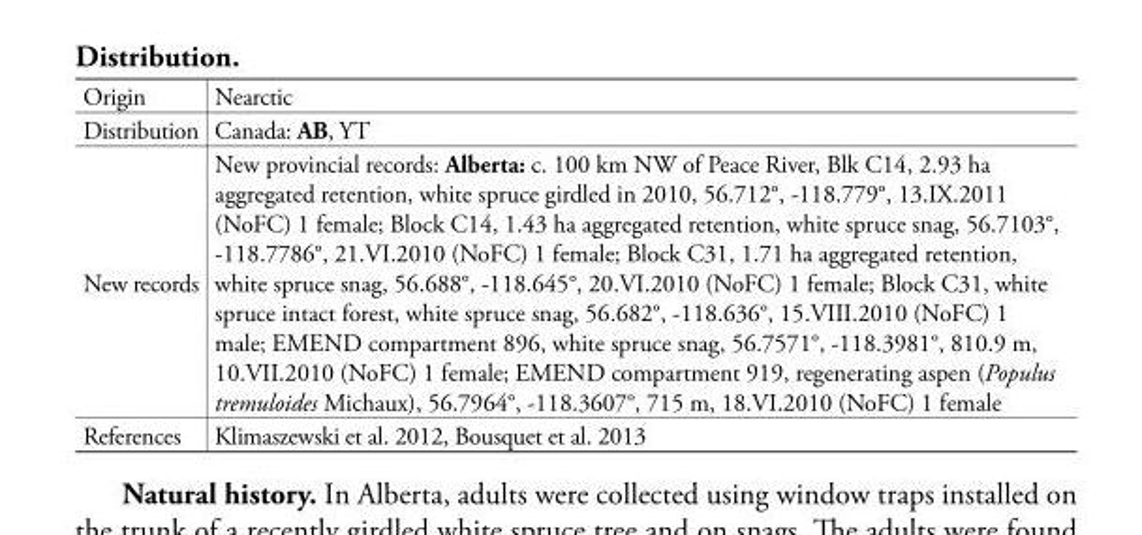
<table><tbody><tr><td>Origin</td><td>Nearctic</td></tr><tr><td>Distribution</td><td>Canada: AB, YT</td></tr><tr><td>New records</td><td>New provincial records: Alberta: c. 100 km NW of Peace River, Blk C14, 2.93 ha aggregated retention, white spruce girdled in 2010, 56.712°, -118.779°, 13.IX.2011 (NoFC) 1 female; Block C14, 1.43 ha aggregated retention, white spruce snag, 56.7103°, -118.7786°, 21.VI.2010 (NoFC) 1 female; Block C31, 1.71 ha aggregated retention, white spruce snag, 56.688°, -118.645°, 20.VI.2010 (NoFC) 1 female; Block C31, white spruce intact forest, white spruce snag, 56.682°, -118.636°, 15.VIII.2010 (NoFC) 1 male; EMEND compartment 896, white spruce snag, 56.7571°, -118.3981°, 810.9 m, 10.VII.2010 (NoFC) 1 female; EMEND compartment 919, regenerating aspen (Populus tremuloides Michaux), 56.7964°, -118.3607°, 715 m, 18.VI.2010 (NoFC) 1 female</td></tr><tr><td>References</td><td>Klimaszewski et al. 2012, Bousquet et al. 2013</td></tr></tbody></table>